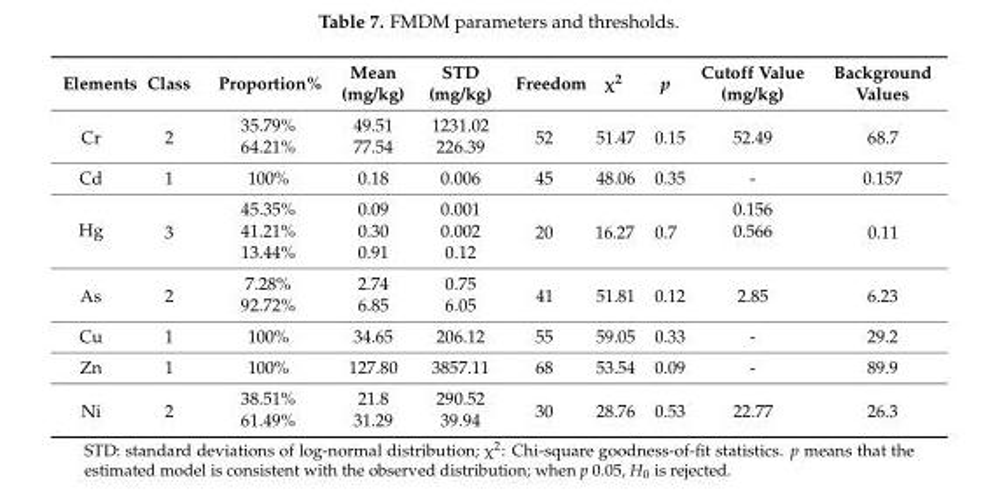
<table><thead><tr><td>Elements</td><td>Class</td><td>Proportion%</td><td>Mean (mg/kg)</td><td>STD (mg/kg)</td><td>Freedom</td><td>χ<sup>2</sup></td><td>p</td><td>Cutoff Value (mg/kg)</td><td>Background Values</td></tr></thead><tbody><tr><td rowspan="2">Cr</td><td rowspan="2">2</td><td>35.79%</td><td>49.51</td><td>1231.02</td><td rowspan="2">52</td><td rowspan="2">51.47</td><td rowspan="2">0.15</td><td rowspan="2">52.49</td><td rowspan="2">68.7</td></tr><tr><td>64.21%</td><td>77.54</td><td>226.39</td></tr><tr><td>Cd</td><td>1</td><td>100%</td><td>0.18</td><td>0.006</td><td>45</td><td>48.06</td><td>0.35</td><td>-</td><td>0.157</td></tr><tr><td rowspan="3">Hg</td><td rowspan="3">3</td><td>45.35%</td><td>0.09</td><td>0.001</td><td rowspan="3">20</td><td rowspan="3">16.27</td><td rowspan="3">0.7</td><td>0.156</td><td rowspan="3">0.11</td></tr><tr><td>41.21%</td><td>0.30</td><td>0.002</td><td>0.566</td></tr><tr><td>13.44%</td><td>0.91</td><td>0.12</td><td></td></tr><tr><td rowspan="2">As</td><td rowspan="2">2</td><td>7.28%</td><td>2.74</td><td>0.75</td><td rowspan="2">41</td><td rowspan="2">51.81</td><td rowspan="2">0.12</td><td rowspan="2">2.85</td><td rowspan="2">6.23</td></tr><tr><td>92.72%</td><td>6.85</td><td>6.05</td></tr><tr><td>Cu</td><td>1</td><td>100%</td><td>34.65</td><td>206.12</td><td>55</td><td>59.05</td><td>0.33</td><td>-</td><td>29.2</td></tr><tr><td>Zn</td><td>1</td><td>100%</td><td>127.80</td><td>3857.11</td><td>68</td><td>53.54</td><td>0.09</td><td>-</td><td>89.9</td></tr><tr><td rowspan="2">Ni</td><td rowspan="2">2</td><td>38.51%</td><td>21.8</td><td>290.52</td><td rowspan="2">30</td><td rowspan="2">28.76</td><td rowspan="2">0.53</td><td rowspan="2">22.77</td><td rowspan="2">26.3</td></tr><tr><td>61.49%</td><td>31.29</td><td>39.94</td></tr></tbody></table>